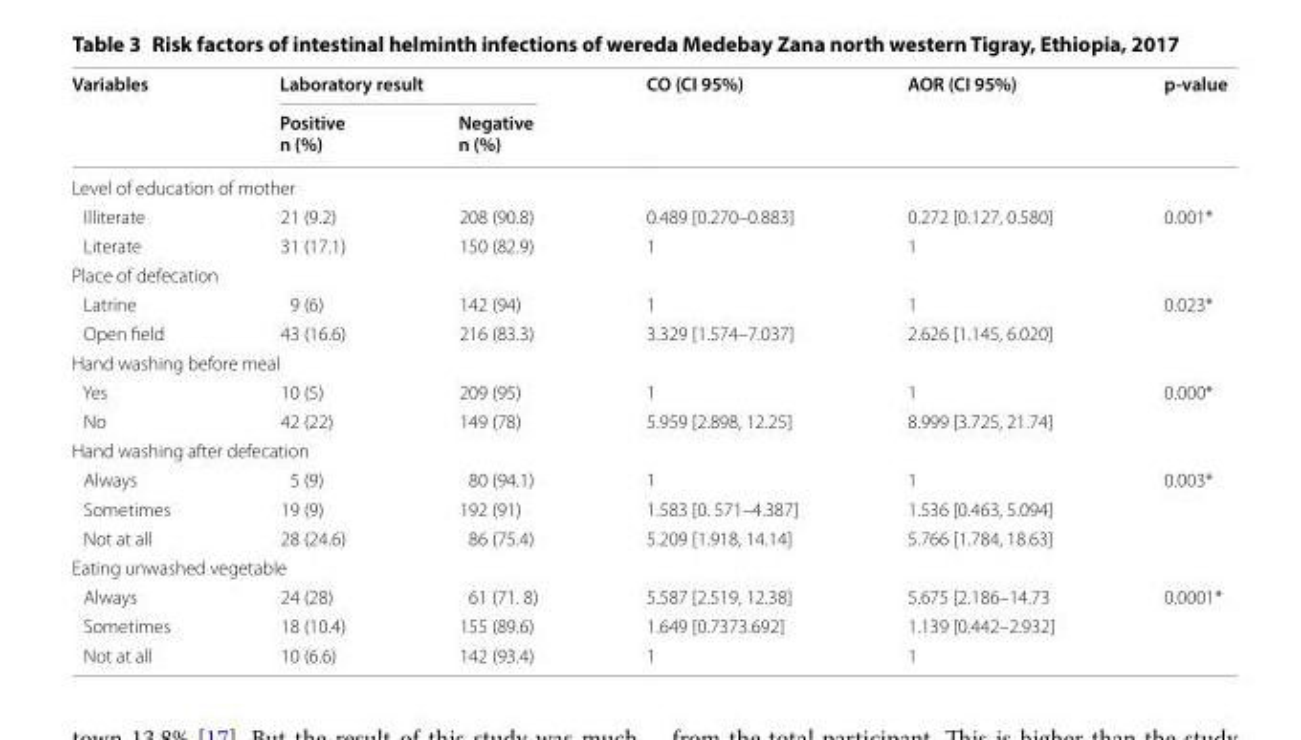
<table><thead><tr><td rowspan="2">Variables</td><td colspan="2">Laboratory result</td><td rowspan="2">CO (CI 95%)</td><td rowspan="2">AOR (CI 95%)</td><td rowspan="2">p-value</td></tr><tr><td>Positive n (%)</td><td>Negative n (%)</td></tr></thead><tbody><tr><td colspan="6">Level of education of mother</td></tr><tr><td>Illiterate</td><td>21 (9.2)</td><td>208 (90.8)</td><td>0.489 [0.270–0.883]</td><td>0.272 [0.127, 0.580]</td><td rowspan="2">0.001*</td></tr><tr><td>Literate</td><td>31 (17.1)</td><td>150 (82.9)</td><td>1</td><td>1</td></tr><tr><td colspan="6">Place of defecation</td></tr><tr><td>Latrine</td><td>9 (6)</td><td>142 (94)</td><td>1</td><td>1</td><td rowspan="2">0.023*</td></tr><tr><td>Open field</td><td>43 (16.6)</td><td>216 (83.3)</td><td>3.329 [1.574–7.037]</td><td>2.626 [1.145, 6.020]</td></tr><tr><td colspan="6">Hand washing before meal</td></tr><tr><td>Yes</td><td>10 (5)</td><td>209 (95)</td><td>1</td><td>1</td><td rowspan="2">0.000*</td></tr><tr><td>No</td><td>42 (22)</td><td>149 (78)</td><td>5.959 [2.898, 12.25]</td><td>8.999 [3.725, 21.74]</td></tr><tr><td colspan="6">Hand washing after defecation</td></tr><tr><td>Always</td><td>5 (9)</td><td>80 (94.1)</td><td>1</td><td>1</td><td rowspan="3">0.003*</td></tr><tr><td>Sometimes</td><td>19 (9)</td><td>192 (91)</td><td>1.583 [0. 571–4.387]</td><td>1.536 [0.463, 5.094]</td></tr><tr><td>Not at all</td><td>28 (24.6)</td><td>86 (75.4)</td><td>5.209 [1.918, 14.14]</td><td>5.766 [1.784, 18.63]</td></tr><tr><td colspan="6">Eating unwashed vegetable</td></tr><tr><td>Always</td><td>24 (28)</td><td>61 (71. 8)</td><td>5.587 [2.519, 12.38]</td><td>5.675 [2.186–14.73</td><td>0.0001*</td></tr><tr><td>Sometimes</td><td>18 (10.4)</td><td>155 (89.6)</td><td>1.649 [0.7373.692]</td><td>1.139 [0.442–2.932]</td><td></td></tr><tr><td>Not at all</td><td>10 (6.6)</td><td>142 (93.4)</td><td>1</td><td>1</td><td></td></tr></tbody></table>